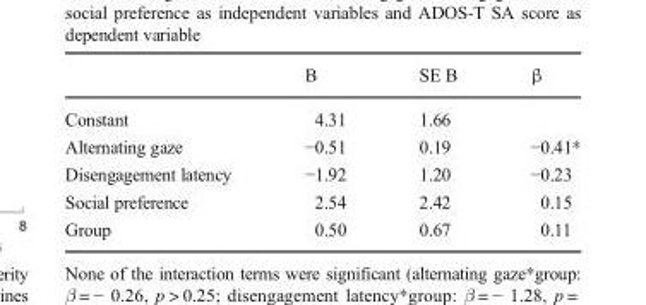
<table><thead><tr><td></td><td>B</td><td>SE B</td><td>β</td></tr></thead><tbody><tr><td>Constant</td><td>4.31</td><td>1.66</td><td></td></tr><tr><td>Alternating gaze</td><td>−0.51</td><td>0.19</td><td>−0.41*</td></tr><tr><td>Disengagement latency</td><td>−1.92</td><td>1.20</td><td>−0.23</td></tr><tr><td>Social preference</td><td>2.54</td><td>2.42</td><td>0.15</td></tr><tr><td>Group</td><td>0.50</td><td>0.67</td><td>0.11</td></tr></tbody></table>